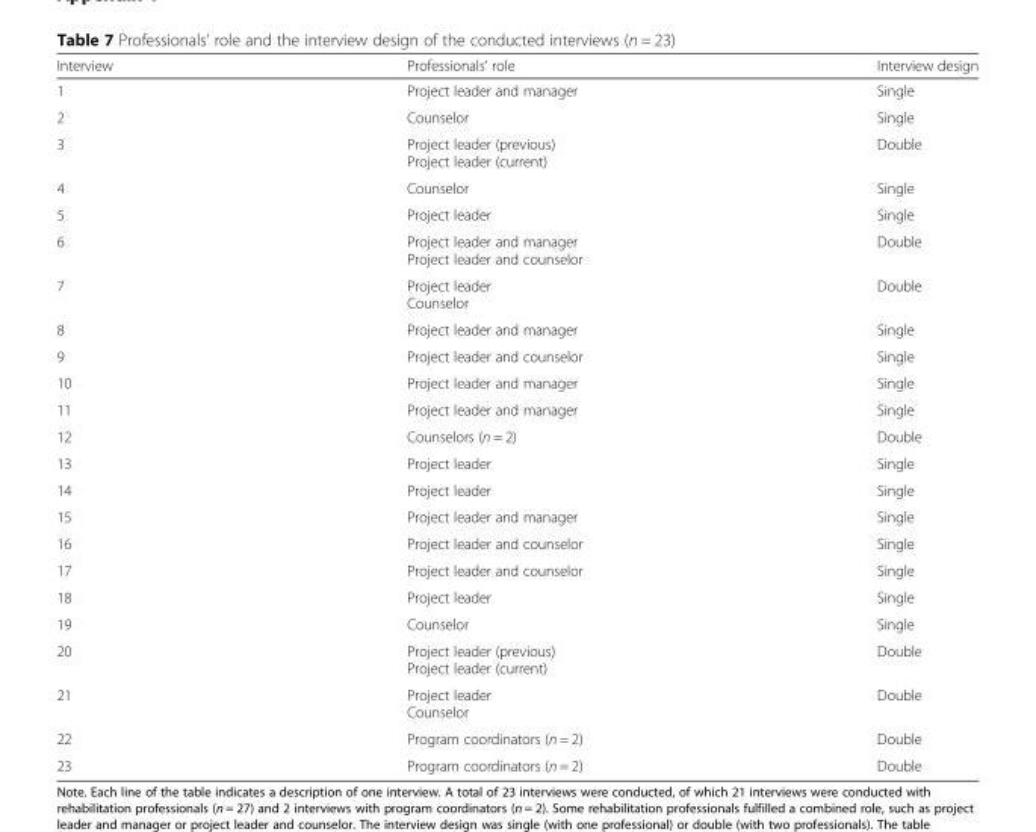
<table><thead><tr><td>Interview</td><td>Professionals’ role</td><td>Interview design</td></tr></thead><tbody><tr><td>1</td><td>Project leader and manager</td><td>Single</td></tr><tr><td>2</td><td>Counselor</td><td>Single</td></tr><tr><td>3</td><td>Project leader (previous) Project leader (current)</td><td>Double</td></tr><tr><td>4</td><td>Counselor</td><td>Single</td></tr><tr><td>5</td><td>Project leader</td><td>Single</td></tr><tr><td>6</td><td>Project leader and manager Project leader and counselor</td><td>Double</td></tr><tr><td>7</td><td>Project leader Counselor</td><td>Double</td></tr><tr><td>8</td><td>Project leader and manager</td><td>Single</td></tr><tr><td>9</td><td>Project leader and counselor</td><td>Single</td></tr><tr><td>10</td><td>Project leader and manager</td><td>Single</td></tr><tr><td>11</td><td>Project leader and manager</td><td>Single</td></tr><tr><td>12</td><td>Counselors (n = 2)</td><td>Double</td></tr><tr><td>13</td><td>Project leader</td><td>Single</td></tr><tr><td>14</td><td>Project leader</td><td>Single</td></tr><tr><td>15</td><td>Project leader and manager</td><td>Single</td></tr><tr><td>16</td><td>Project leader and counselor</td><td>Single</td></tr><tr><td>17</td><td>Project leader and counselor</td><td>Single</td></tr><tr><td>18</td><td>Project leader</td><td>Single</td></tr><tr><td>19</td><td>Counselor</td><td>Single</td></tr><tr><td>20</td><td>Project leader (previous) Project leader (current)</td><td>Double</td></tr><tr><td>21</td><td>Project leader Counselor</td><td>Double</td></tr><tr><td>22</td><td>Program coordinators (n = 2)</td><td>Double</td></tr><tr><td>23</td><td>Program coordinators (n = 2)</td><td>Double</td></tr></tbody></table>